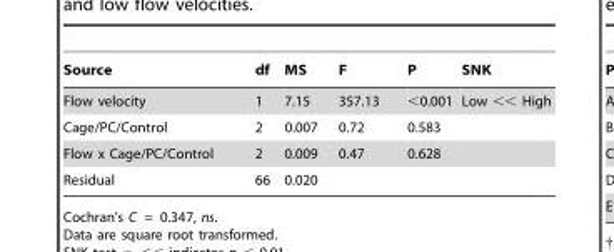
<table><thead><tr><td>Source</td><td>df</td><td>MS</td><td>F</td><td>P</td><td>SNK</td></tr></thead><tbody><tr><td>Flow velocity</td><td>1</td><td>7.15</td><td>357.13</td><td>&lt;0.001</td><td>Low &lt;&lt; High</td></tr><tr><td>Cage/PC/Control</td><td>2</td><td>0.007</td><td>0.72</td><td>0.583</td><td></td></tr><tr><td>Flow x Cage/PC/Control</td><td>2</td><td>0.009</td><td>0.47</td><td>0.628</td><td></td></tr><tr><td>Residual</td><td>66</td><td>0.020</td><td></td><td></td><td></td></tr></tbody></table>